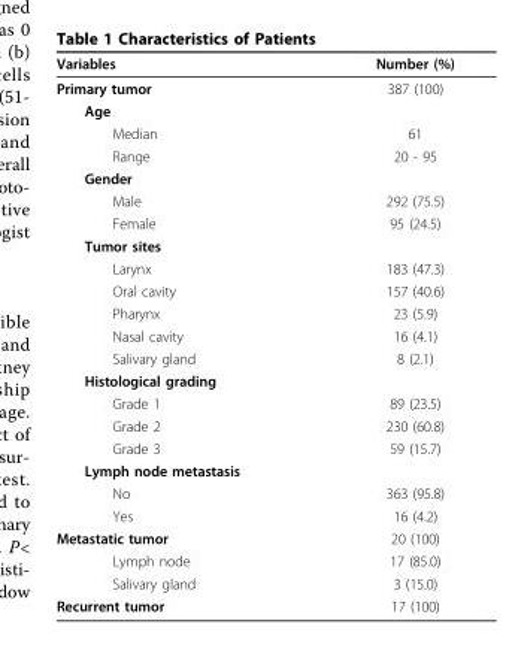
<table><thead><tr><td>Variables</td><td>Number (%)</td></tr></thead><tbody><tr><td>Primary tumor</td><td>387 (100)</td></tr><tr><td colspan="2">Age</td></tr><tr><td>Median</td><td>61</td></tr><tr><td>Range</td><td>20 - 95</td></tr><tr><td colspan="2">Gender</td></tr><tr><td>Male</td><td>292 (75.5)</td></tr><tr><td>Female</td><td>95 (24.5)</td></tr><tr><td colspan="2">Tumor sites</td></tr><tr><td>Larynx</td><td>183 (47.3)</td></tr><tr><td>Oral cavity</td><td>157 (40.6)</td></tr><tr><td>Pharynx</td><td>23 (5.9)</td></tr><tr><td>Nasal cavity</td><td>16 (4.1)</td></tr><tr><td>Salivary gland</td><td>8 (2.1)</td></tr><tr><td colspan="2">Histological grading</td></tr><tr><td>Grade 1</td><td>89 (23.5)</td></tr><tr><td>Grade 2</td><td>230 (60.8)</td></tr><tr><td>Grade 3</td><td>59 (15.7)</td></tr><tr><td colspan="2">Lymph node metastasis</td></tr><tr><td>No</td><td>363 (95.8)</td></tr><tr><td>Yes</td><td>16 (4.2)</td></tr><tr><td>Metastatic tumor</td><td>20 (100)</td></tr><tr><td>Lymph node</td><td>17 (85.0)</td></tr><tr><td>Salivary gland</td><td>3 (15.0)</td></tr><tr><td>Recurrent tumor</td><td>17 (100)</td></tr></tbody></table>